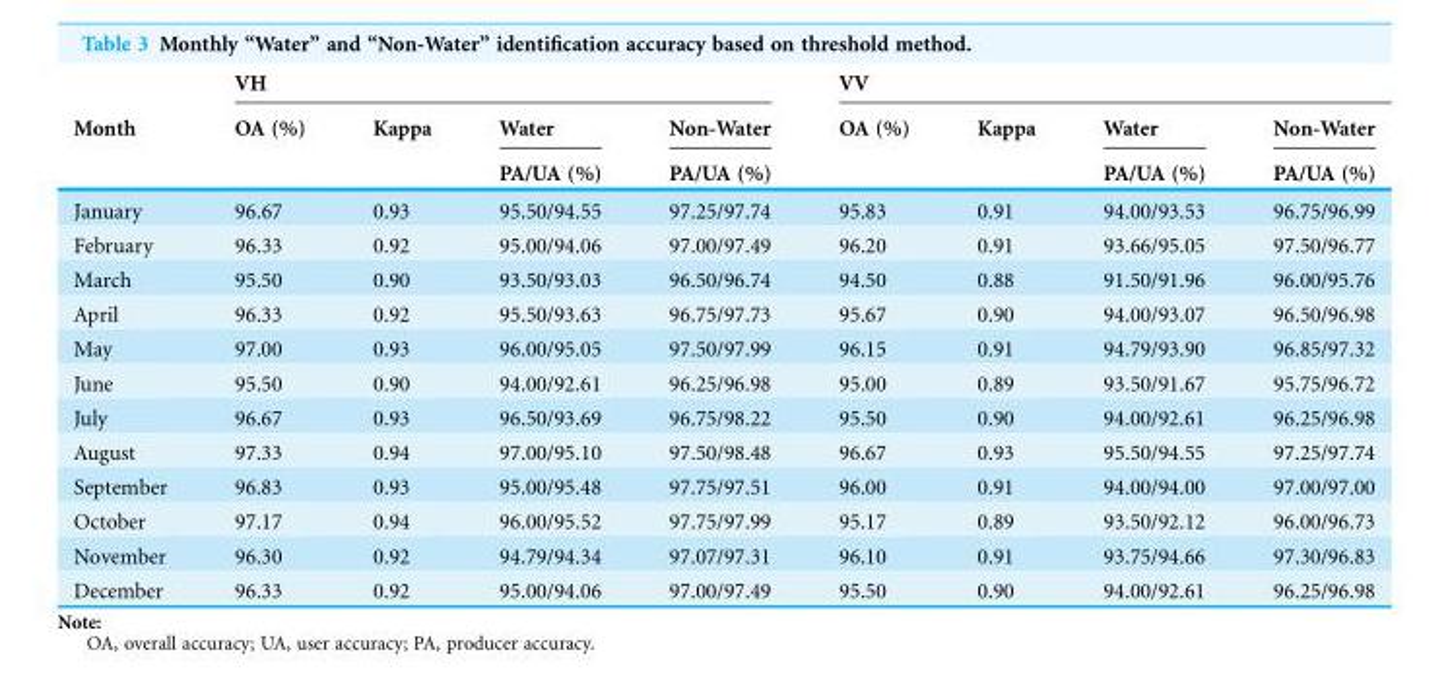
<table><thead><tr><td rowspan="3">Month</td><td colspan="4">VH</td><td colspan="4">VV</td></tr><tr><td rowspan="2">OA (%)</td><td rowspan="2">Kappa</td><td rowspan="2">Water PA/UA (%)</td><td rowspan="2">Non-Water PA/UA (%)</td><td rowspan="2">OA (%)</td><td rowspan="2">Kappa</td><td rowspan="2">Water PA/UA (%)</td><td rowspan="2">Non-Water PA/UA (%)</td></tr><tr></tr></thead><tbody><tr><td>January</td><td>96.67</td><td>0.93</td><td>95.50/94.55</td><td>97.25/97.74</td><td>95.83</td><td>0.91</td><td>94.00/93.53</td><td>96.75/96.99</td></tr><tr><td>February</td><td>96.33</td><td>0.92</td><td>95.00/94.06</td><td>97.00/97.49</td><td>96.20</td><td>0.91</td><td>93.66/95.05</td><td>97.50/96.77</td></tr><tr><td>March</td><td>95.50</td><td>0.90</td><td>93.50/93.03</td><td>96.50/96.74</td><td>94.50</td><td>0.88</td><td>91.50/91.96</td><td>96.00/95.76</td></tr><tr><td>April</td><td>96.33</td><td>0.92</td><td>95.50/93.63</td><td>96.75/97.73</td><td>95.67</td><td>0.90</td><td>94.00/93.07</td><td>96.50/96.98</td></tr><tr><td>May</td><td>97.00</td><td>0.93</td><td>96.00/95.05</td><td>97.50/97.99</td><td>96.15</td><td>0.91</td><td>94.79/93.90</td><td>96.85/97.32</td></tr><tr><td>June</td><td>95.50</td><td>0.90</td><td>94.00/92.61</td><td>96.25/96.98</td><td>95.00</td><td>0.89</td><td>93.50/91.67</td><td>95.75/96.72</td></tr><tr><td>July</td><td>96.67</td><td>0.93</td><td>96.50/93.69</td><td>96.75/98.22</td><td>95.50</td><td>0.90</td><td>94.00/92.61</td><td>96.25/96.98</td></tr><tr><td>August</td><td>97.33</td><td>0.94</td><td>97.00/95.10</td><td>97.50/98.48</td><td>96.67</td><td>0.93</td><td>95.50/94.55</td><td>97.25/97.74</td></tr><tr><td>September</td><td>96.83</td><td>0.93</td><td>95.00/95.48</td><td>97.75/97.51</td><td>96.00</td><td>0.91</td><td>94.00/94.00</td><td>97.00/97.00</td></tr><tr><td>October</td><td>97.17</td><td>0.94</td><td>96.00/95.52</td><td>97.75/97.99</td><td>95.17</td><td>0.89</td><td>93.50/92.12</td><td>96.00/96.73</td></tr><tr><td>November</td><td>96.30</td><td>0.92</td><td>94.79/94.34</td><td>97.07/97.31</td><td>96.10</td><td>0.91</td><td>93.75/94.66</td><td>97.30/96.83</td></tr><tr><td>December</td><td>96.33</td><td>0.92</td><td>95.00/94.06</td><td>97.00/97.49</td><td>95.50</td><td>0.90</td><td>94.00/92.61</td><td>96.25/96.98</td></tr></tbody></table>